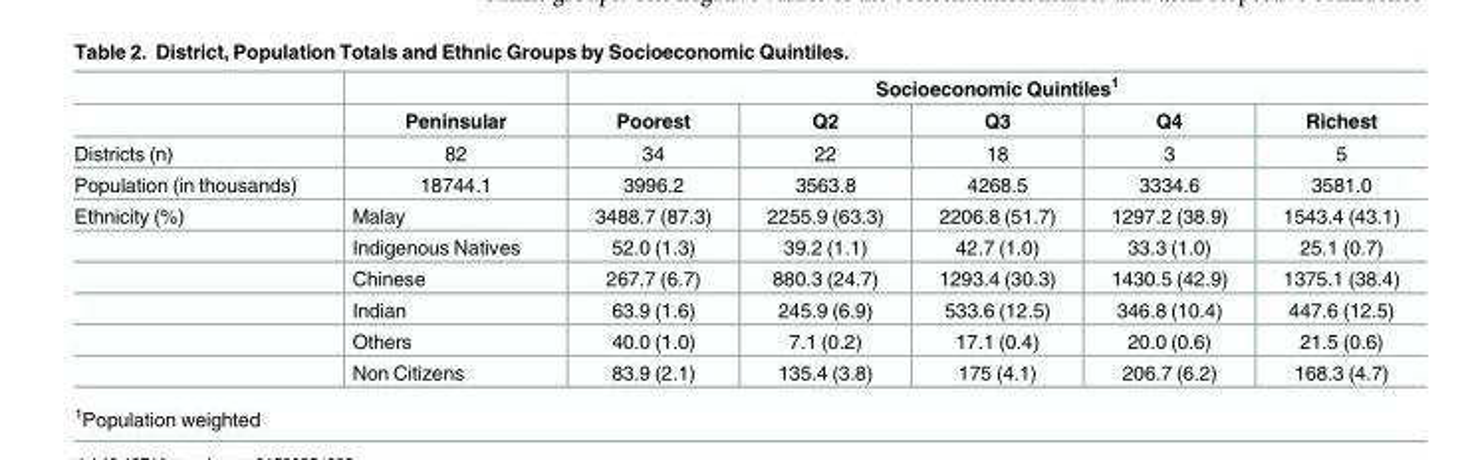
<table><thead><tr><td rowspan="2"></td><td rowspan="2">Peninsular</td><td colspan="5">Socioeconomic Quintiles<sup>1</sup></td></tr><tr><td>Poorest</td><td>Q2</td><td>Q3</td><td>Q4</td><td>Richest</td></tr></thead><tbody><tr><td>Districts (n)</td><td>82</td><td>34</td><td>22</td><td>18</td><td>3</td><td>5</td></tr><tr><td>Population (in thousands)</td><td>18744.1</td><td>3996.2</td><td>3563.8</td><td>4268.5</td><td>3334.6</td><td>3581.0</td></tr><tr><td rowspan="6">Ethnicity (%)</td><td>Malay</td><td>3488.7 (87.3)</td><td>2255.9 (63.3)</td><td>2206.8 (51.7)</td><td>1297.2 (38.9)</td><td>1543.4 (43.1)</td></tr><tr><td>Indigenous Natives</td><td>52.0 (1.3)</td><td>39.2 (1.1)</td><td>42.7 (1.0)</td><td>33.3 (1.0)</td><td>25.1 (0.7)</td></tr><tr><td>Chinese</td><td>267.7 (6.7)</td><td>880.3 (24.7)</td><td>1293.4 (30.3)</td><td>1430.5 (42.9)</td><td>1375.1 (38.4)</td></tr><tr><td>Indian</td><td>63.9 (1.6)</td><td>245.9 (6.9)</td><td>533.6 (12.5)</td><td>346.8 (10.4)</td><td>447.6 (12.5)</td></tr><tr><td>Others</td><td>40.0 (1.0)</td><td>7.1 (0.2)</td><td>17.1 (0.4)</td><td>20.0 (0.6)</td><td>21.5 (0.6)</td></tr><tr><td>Non Citizens</td><td>83.9 (2.1)</td><td>135.4 (3.8)</td><td>175 (4.1)</td><td>206.7 (6.2)</td><td>168.3 (4.7)</td></tr></tbody></table>